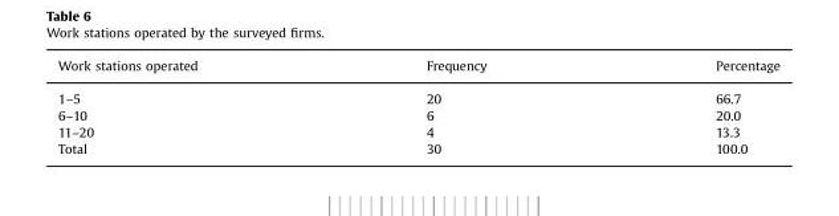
<table><thead><tr><td>Work stations operated</td><td>Frequency</td><td>Percentage</td></tr></thead><tbody><tr><td>1–5</td><td>20</td><td>66.7</td></tr><tr><td>6–10</td><td>6</td><td>20.0</td></tr><tr><td>11–20</td><td>4</td><td>13.3</td></tr><tr><td>Total</td><td>30</td><td>100.0</td></tr></tbody></table>